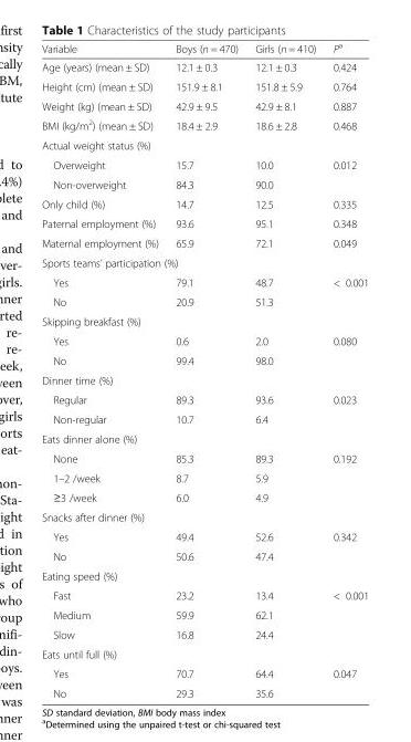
<table><thead><tr><td>Variable</td><td>Boys (n = 470)</td><td>Girls (n = 410)</td><td>P<sup>a</sup></td></tr></thead><tbody><tr><td>Age (years) (mean ± SD)</td><td>12.1 ± 0.3</td><td>12.1 ± 0.3</td><td>0.424</td></tr><tr><td>Height (cm) (mean ± SD)</td><td>151.9 ± 8.1</td><td>151.8 ± 5.9</td><td>0.764</td></tr><tr><td>Weight (kg) (mean ± SD)</td><td>42.9 ± 9.5</td><td>42.9 ± 8.1</td><td>0.887</td></tr><tr><td>BMI (kg/m<sup>2</sup>) (mean ± SD)</td><td>18.4 ± 2.9</td><td>18.6 ± 2.8</td><td>0.468</td></tr><tr><td colspan="4">Actual weight status (%)</td></tr><tr><td>Overweight</td><td>15.7</td><td>10.0</td><td>0.012</td></tr><tr><td>Non-overweight</td><td>84.3</td><td>90.0</td><td></td></tr><tr><td>Only child (%)</td><td>14.7</td><td>12.5</td><td>0.335</td></tr><tr><td>Paternal employment (%)</td><td>93.6</td><td>95.1</td><td>0.348</td></tr><tr><td>Maternal employment (%)</td><td>65.9</td><td>72.1</td><td>0.049</td></tr><tr><td colspan="4">Sports teams’ participation (%)</td></tr><tr><td>Yes</td><td>79.1</td><td>48.7</td><td>&lt; 0.001</td></tr><tr><td>No</td><td>20.9</td><td>51.3</td><td></td></tr><tr><td colspan="4">Skipping breakfast (%)</td></tr><tr><td>Yes</td><td>0.6</td><td>2.0</td><td>0.080</td></tr><tr><td>No</td><td>99.4</td><td>98.0</td><td></td></tr><tr><td colspan="4">Dinner time (%)</td></tr><tr><td>Regular</td><td>89.3</td><td>93.6</td><td>0.023</td></tr><tr><td>Non-regular</td><td>10.7</td><td>6.4</td><td></td></tr><tr><td colspan="4">Eats dinner alone (%)</td></tr><tr><td>None</td><td>85.3</td><td>89.3</td><td>0.192</td></tr><tr><td>1–2 /week</td><td>8.7</td><td>5.9</td><td></td></tr><tr><td>≥3 /week</td><td>6.0</td><td>4.9</td><td></td></tr><tr><td colspan="4">Snacks after dinner (%)</td></tr><tr><td>Yes</td><td>49.4</td><td>52.6</td><td>0.342</td></tr><tr><td>No</td><td>50.6</td><td>47.4</td><td></td></tr><tr><td colspan="4">Eating speed (%)</td></tr><tr><td>Fast</td><td>23.2</td><td>13.4</td><td>&lt; 0.001</td></tr><tr><td>Medium</td><td>59.9</td><td>62.1</td><td></td></tr><tr><td>Slow</td><td>16.8</td><td>24.4</td><td></td></tr><tr><td colspan="4">Eats until full (%)</td></tr><tr><td>Yes</td><td>70.7</td><td>64.4</td><td>0.047</td></tr><tr><td>No</td><td>29.3</td><td>35.6</td><td></td></tr></tbody></table>